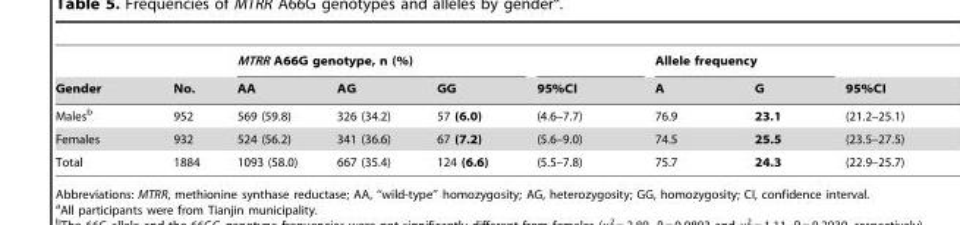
<table><thead><tr><td rowspan="2">Gender</td><td rowspan="2">No.</td><td colspan="3">MTRR A66G genotype, n (%)</td><td rowspan="2">95%CI</td><td colspan="2">Allele frequency</td><td rowspan="2">95%CI</td></tr><tr><td>AA</td><td>AG</td><td>GG</td><td>A</td><td>G</td></tr></thead><tbody><tr><td>Males<sup>b</sup></td><td>952</td><td>569 (59.8)</td><td>326 (34.2)</td><td>57 (6.0)</td><td>(4.6–7.7)</td><td>76.9</td><td>23.1</td><td>(21.2–25.1)</td></tr><tr><td>Females</td><td>932</td><td>524 (56.2)</td><td>341 (36.6)</td><td>67 (7.2)</td><td>(5.6–9.0)</td><td>74.5</td><td>25.5</td><td>(23.5–27.5)</td></tr><tr><td>Total</td><td>1884</td><td>1093 (58.0)</td><td>667 (35.4)</td><td>124 (6.6)</td><td>(5.5–7.8)</td><td>75.7</td><td>24.3</td><td>(22.9–25.7)</td></tr></tbody></table>